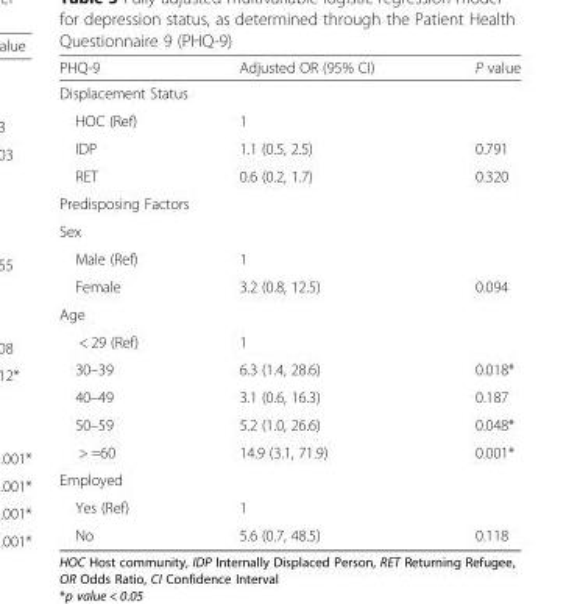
<table><thead><tr><td>PHQ-9</td><td>Adjusted OR (95% CI)</td><td>P value</td></tr></thead><tbody><tr><td colspan="3">Displacement Status</td></tr><tr><td>HOC (Ref)</td><td>1</td><td></td></tr><tr><td>IDP</td><td>1.1 (0.5, 2.5)</td><td>0.791</td></tr><tr><td>RET</td><td>0.6 (0.2, 1.7)</td><td>0.320</td></tr><tr><td colspan="3">Predisposing Factors</td></tr><tr><td colspan="3">Sex</td></tr><tr><td>Male (Ref)</td><td>1</td><td></td></tr><tr><td>Female</td><td>3.2 (0.8, 12.5)</td><td>0.094</td></tr><tr><td colspan="3">Age</td></tr><tr><td>&lt; 29 (Ref)</td><td>1</td><td></td></tr><tr><td>30–39</td><td>6.3 (1.4, 28.6)</td><td>0.018*</td></tr><tr><td>40–49</td><td>3.1 (0.6, 16.3)</td><td>0.187</td></tr><tr><td>50–59</td><td>5.2 (1.0, 26.6)</td><td>0.048*</td></tr><tr><td>&gt; =60</td><td>14.9 (3.1, 71.9)</td><td>0.001*</td></tr><tr><td colspan="3">Employed</td></tr><tr><td>Yes (Ref)</td><td>1</td><td></td></tr><tr><td>No</td><td>5.6 (0.7, 48.5)</td><td>0.118</td></tr></tbody></table>